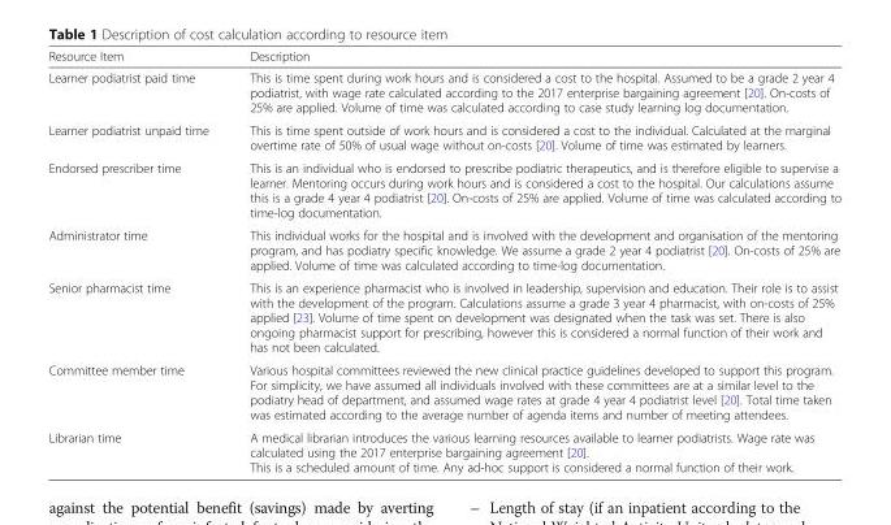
<table><thead><tr><td>Resource Item</td><td>Description</td></tr></thead><tbody><tr><td>Learner podiatrist paid time</td><td>This is time spent during work hours and is considered a cost to the hospital. Assumed to be a grade 2 year 4 podiatrist, with wage rate calculated according to the 2017 enterprise bargaining agreement [20]. On-costs of 25% are applied. Volume of time was calculated according to case study learning log documentation.</td></tr><tr><td>Learner podiatrist unpaid time</td><td>This is time spent outside of work hours and is considered a cost to the individual. Calculated at the marginal overtime rate of 50% of usual wage without on-costs [20]. Volume of time was estimated by learners.</td></tr><tr><td>Endorsed prescriber time</td><td>This is an individual who is endorsed to prescribe podiatric therapeutics, and is therefore eligible to supervise a learner. Mentoring occurs during work hours and is considered a cost to the hospital. Our calculations assume this is a grade 4 year 4 podiatrist [20]. On-costs of 25% are applied. Volume of time was calculated according to time-log documentation.</td></tr><tr><td>Administrator time</td><td>This individual works for the hospital and is involved with the development and organisation of the mentoring program, and has podiatry specific knowledge. We assume a grade 2 year 4 podiatrist [20]. On-costs of 25% are applied. Volume of time was calculated according to time-log documentation.</td></tr><tr><td>Senior pharmacist time</td><td>This is an experience pharmacist who is involved in leadership, supervision and education. Their role is to assist with the development of the program. Calculations assume a grade 3 year 4 pharmacist, with on-costs of 25% applied [23]. Volume of time spent on development was designated when the task was set. There is also ongoing pharmacist support for prescribing, however this is considered a normal function of their work and has not been calculated.</td></tr><tr><td>Committee member time</td><td>Various hospital committees reviewed the new clinical practice guidelines developed to support this program. For simplicity, we have assumed all individuals involved with these committees are at a similar level to the podiatry head of department, and assumed wage rates at grade 4 year 4 podiatrist level [20]. Total time taken was estimated according to the average number of agenda items and number of meeting attendees.</td></tr><tr><td>Librarian time</td><td>A medical librarian introduces the various learning resources available to learner podiatrists. Wage rate was calculated using the 2017 enterprise bargaining agreement [20]. This is a scheduled amount of time. Any ad-hoc support is considered a normal function of their work.</td></tr></tbody></table>